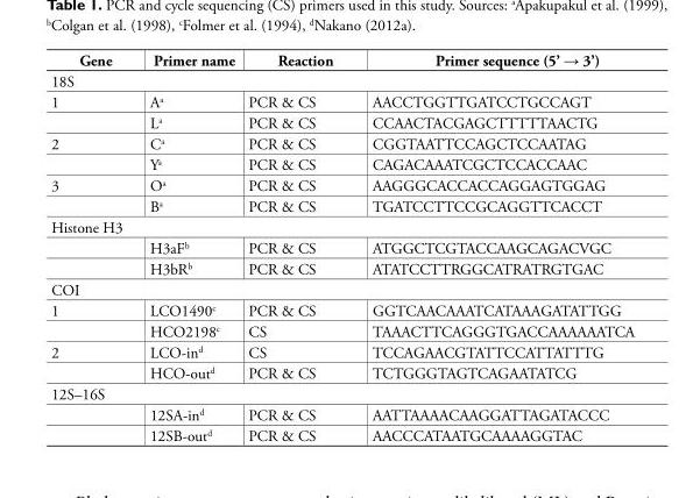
<table><thead><tr><td>Gene</td><td>Primer name</td><td>Reaction</td><td>Primer sequence (5’ → 3’)</td></tr></thead><tbody><tr><td colspan="4">18S</td></tr><tr><td rowspan="2">1</td><td>A<sup>a</sup></td><td>PCR &amp; CS</td><td>AACCTGGTTGATCCTGCCAGT</td></tr><tr><td>L<sup>a</sup></td><td>PCR &amp; CS</td><td>CCAACTACGAGCTTTTTAACTG</td></tr><tr><td rowspan="2">2</td><td>C<sup>a</sup></td><td>PCR &amp; CS</td><td>CGGTAATTCCAGCTCCAATAG</td></tr><tr><td>Y<sup>a</sup></td><td>PCR &amp; CS</td><td>CAGACAAATCGCTCCACCAAC</td></tr><tr><td rowspan="2">3</td><td>O<sup>a</sup></td><td>PCR &amp; CS</td><td>AAGGGCACCACCAGGAGTGGAG</td></tr><tr><td>B<sup>a</sup></td><td>PCR &amp; CS</td><td>TGATCCTTCCGCAGGTTCACCT</td></tr><tr><td colspan="4">Histone H3</td></tr><tr><td></td><td>H3aF<sup>b</sup></td><td>PCR &amp; CS</td><td>ATGGCTCGTACCAAGCAGACVGC</td></tr><tr><td></td><td>H3bR<sup>b</sup></td><td>PCR &amp; CS</td><td>ATATCCTTRGGCATRATRGTGAC</td></tr><tr><td colspan="4">COI</td></tr><tr><td rowspan="2">1</td><td>LCO1490<sup>c</sup></td><td>PCR &amp; CS</td><td>GGTCAACAAATCATAAAGATATTGG</td></tr><tr><td>HCO2198<sup>c</sup></td><td>CS</td><td>TAAACTTCAGGGTGACCAAAAAATCA</td></tr><tr><td rowspan="2">2</td><td>LCO-in<sup>d</sup></td><td>CS</td><td>TCCAGAACGTATTCCATTATTTG</td></tr><tr><td>HCO-out<sup>d</sup></td><td>PCR &amp; CS</td><td>TCTGGGTAGTCAGAATATCG</td></tr><tr><td colspan="4">12S–16S</td></tr><tr><td></td><td>12SA-in<sup>d</sup></td><td>PCR &amp; CS</td><td>AATTAAAACAAGGATTAGATACCC</td></tr><tr><td></td><td>12SB-out<sup>d</sup></td><td>PCR &amp; CS</td><td>AACCCATAATGCAAAAGGTAC</td></tr></tbody></table>